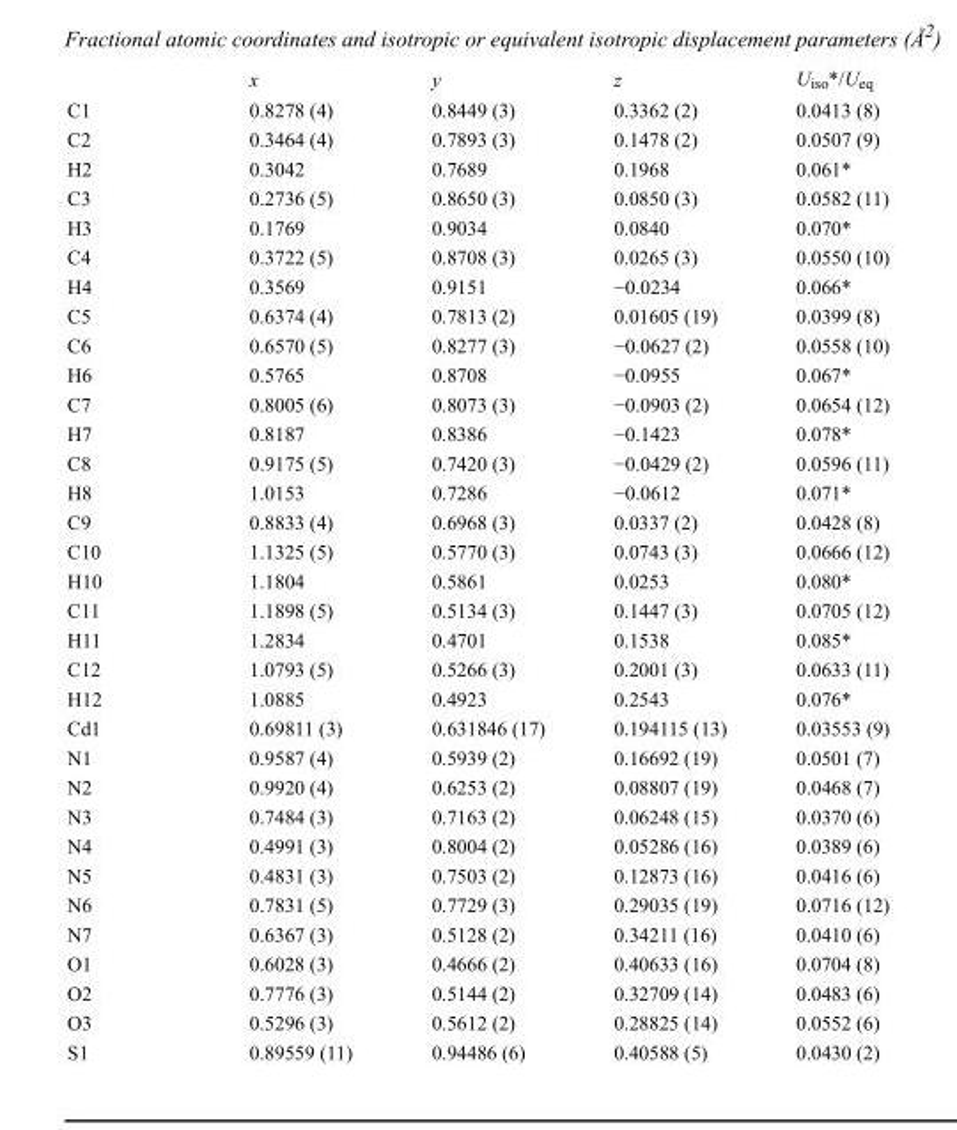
<table><thead><tr><td></td><td>x</td><td>y</td><td>z</td><td>U<sub>iso</sub>*/U<sub>eq</sub></td></tr></thead><tbody><tr><td>C1</td><td>0.8278 (4)</td><td>0.8449 (3)</td><td>0.3362 (2)</td><td>0.0413 (8)</td></tr><tr><td>C2</td><td>0.3464 (4)</td><td>0.7893 (3)</td><td>0.1478 (2)</td><td>0.0507 (9)</td></tr><tr><td>H2</td><td>0.3042</td><td>0.7689</td><td>0.1968</td><td>0.061*</td></tr><tr><td>C3</td><td>0.2736 (5)</td><td>0.8650 (3)</td><td>0.0850 (3)</td><td>0.0582 (11)</td></tr><tr><td>H3</td><td>0.1769</td><td>0.9034</td><td>0.0840</td><td>0.070*</td></tr><tr><td>C4</td><td>0.3722 (5)</td><td>0.8708 (3)</td><td>0.0265 (3)</td><td>0.0550 (10)</td></tr><tr><td>H4</td><td>0.3569</td><td>0.9151</td><td>−0.0234</td><td>0.066*</td></tr><tr><td>C5</td><td>0.6374 (4)</td><td>0.7813 (2)</td><td>0.01605 (19)</td><td>0.0399 (8)</td></tr><tr><td>C6</td><td>0.6570 (5)</td><td>0.8277 (3)</td><td>−0.0627 (2)</td><td>0.0558 (10)</td></tr><tr><td>H6</td><td>0.5765</td><td>0.8708</td><td>−0.0955</td><td>0.067*</td></tr><tr><td>C7</td><td>0.8005 (6)</td><td>0.8073 (3)</td><td>−0.0903 (2)</td><td>0.0654 (12)</td></tr><tr><td>H7</td><td>0.8187</td><td>0.8386</td><td>−0.1423</td><td>0.078*</td></tr><tr><td>C8</td><td>0.9175 (5)</td><td>0.7420 (3)</td><td>−0.0429 (2)</td><td>0.0596 (11)</td></tr><tr><td>H8</td><td>1.0153</td><td>0.7286</td><td>−0.0612</td><td>0.071*</td></tr><tr><td>C9</td><td>0.8833 (4)</td><td>0.6968 (3)</td><td>0.0337 (2)</td><td>0.0428 (8)</td></tr><tr><td>C10</td><td>1.1325 (5)</td><td>0.5770 (3)</td><td>0.0743 (3)</td><td>0.0666 (12)</td></tr><tr><td>H10</td><td>1.1804</td><td>0.5861</td><td>0.0253</td><td>0.080*</td></tr><tr><td>C11</td><td>1.1898 (5)</td><td>0.5134 (3)</td><td>0.1447 (3)</td><td>0.0705 (12)</td></tr><tr><td>H11</td><td>1.2834</td><td>0.4701</td><td>0.1538</td><td>0.085*</td></tr><tr><td>C12</td><td>1.0793 (5)</td><td>0.5266 (3)</td><td>0.2001 (3)</td><td>0.0633 (11)</td></tr><tr><td>H12</td><td>1.0885</td><td>0.4923</td><td>0.2543</td><td>0.076*</td></tr><tr><td>Cd1</td><td>0.69811 (3)</td><td>0.631846 (17)</td><td>0.194115 (13)</td><td>0.03553 (9)</td></tr><tr><td>N1</td><td>0.9587 (4)</td><td>0.5939 (2)</td><td>0.16692 (19)</td><td>0.0501 (7)</td></tr><tr><td>N2</td><td>0.9920 (4)</td><td>0.6253 (2)</td><td>0.08807 (19)</td><td>0.0468 (7)</td></tr><tr><td>N3</td><td>0.7484 (3)</td><td>0.7163 (2)</td><td>0.06248 (15)</td><td>0.0370 (6)</td></tr><tr><td>N4</td><td>0.4991 (3)</td><td>0.8004 (2)</td><td>0.05286 (16)</td><td>0.0389 (6)</td></tr><tr><td>N5</td><td>0.4831 (3)</td><td>0.7503 (2)</td><td>0.12873 (16)</td><td>0.0416 (6)</td></tr><tr><td>N6</td><td>0.7831 (5)</td><td>0.7729 (3)</td><td>0.29035 (19)</td><td>0.0716 (12)</td></tr><tr><td>N7</td><td>0.6367 (3)</td><td>0.5128 (2)</td><td>0.34211 (16)</td><td>0.0410 (6)</td></tr><tr><td>O1</td><td>0.6028 (3)</td><td>0.4666 (2)</td><td>0.40633 (16)</td><td>0.0704 (8)</td></tr><tr><td>O2</td><td>0.7776 (3)</td><td>0.5144 (2)</td><td>0.32709 (14)</td><td>0.0483 (6)</td></tr><tr><td>O3</td><td>0.5296 (3)</td><td>0.5612 (2)</td><td>0.28825 (14)</td><td>0.0552 (6)</td></tr><tr><td>S1</td><td>0.89559 (11)</td><td>0.94486 (6)</td><td>0.40588 (5)</td><td>0.0430 (2)</td></tr></tbody></table>